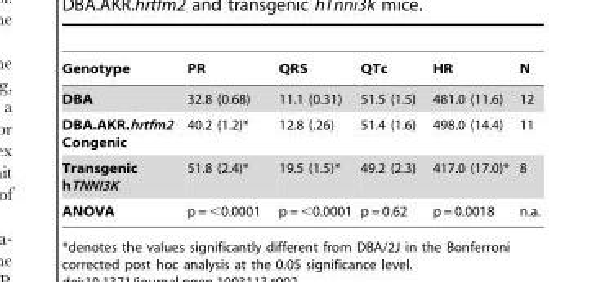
<table><thead><tr><td>Genotype</td><td>PR</td><td>QRS</td><td>QTc</td><td>HR</td><td>N</td></tr></thead><tbody><tr><td>DBA</td><td>32.8 (0.68)</td><td>11.1 (0.31)</td><td>51.5 (1.5)</td><td>481.0 (11.6)</td><td>12</td></tr><tr><td>DBA.AKR.hrtfm2 Congenic</td><td>40.2 (1.2)*</td><td>12.8 (.26)</td><td>51.4 (1.6)</td><td>498.0 (14.4)</td><td>11</td></tr><tr><td>Transgenic hTNNI3K</td><td>51.8 (2.4)*</td><td>19.5 (1.5)*</td><td>49.2 (2.3)</td><td>417.0 (17.0)*</td><td>8</td></tr><tr><td>ANOVA</td><td>p = &lt;0.0001</td><td>p = &lt;0.0001</td><td>p = 0.62</td><td>p = 0.0018</td><td>n.a.</td></tr></tbody></table>